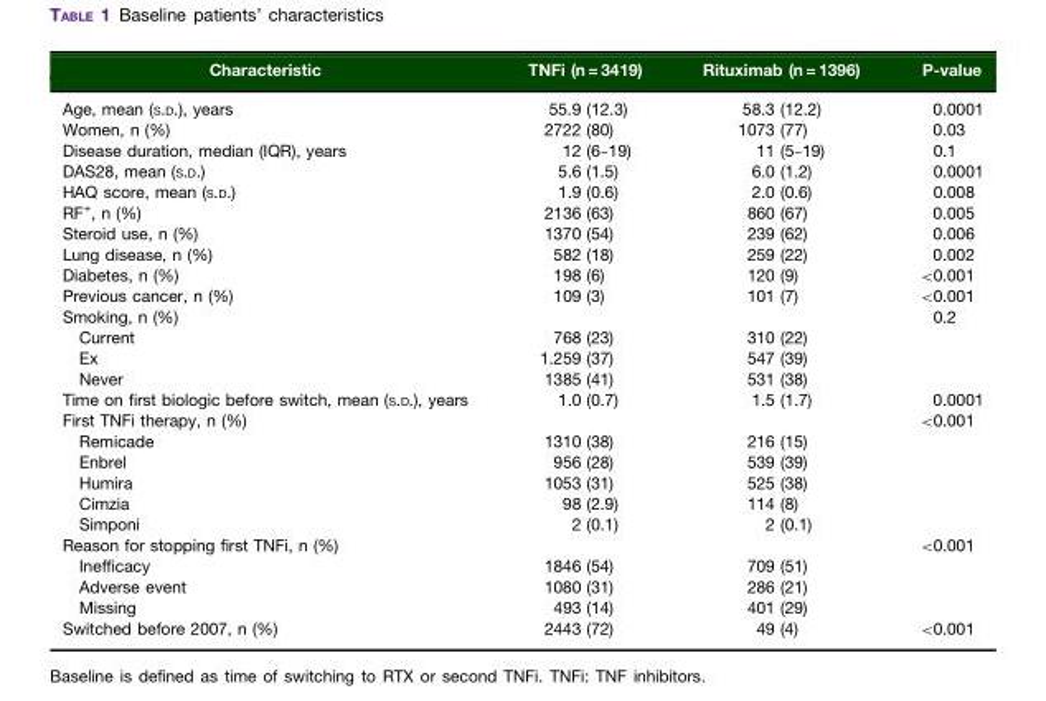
<table><thead><tr><td>Characteristic</td><td>TNFi (n = 3419)</td><td>Rituximab (n = 1396)</td><td>P-value</td></tr></thead><tbody><tr><td>Age, mean (S.D.), years</td><td>55.9 (12.3)</td><td>58.3 (12.2)</td><td>0.0001</td></tr><tr><td>Women, n (%)</td><td>2722 (80)</td><td>1073 (77)</td><td>0.03</td></tr><tr><td>Disease duration, median (IQR), years</td><td>12 (6–19)</td><td>11 (5–19)</td><td>0.1</td></tr><tr><td>DAS28, mean (S.D.)</td><td>5.6 (1.5)</td><td>6.0 (1.2)</td><td>0.0001</td></tr><tr><td>HAQ score, mean (S.D.)</td><td>1.9 (0.6)</td><td>2.0 (0.6)</td><td>0.008</td></tr><tr><td>RF<sup>+</sup>, n (%)</td><td>2136 (63)</td><td>860 (67)</td><td>0.005</td></tr><tr><td>Steroid use, n (%)</td><td>1370 (54)</td><td>239 (62)</td><td>0.006</td></tr><tr><td>Lung disease, n (%)</td><td>582 (18)</td><td>259 (22)</td><td>0.002</td></tr><tr><td>Diabetes, n (%)</td><td>198 (6)</td><td>120 (9)</td><td>&lt;0.001</td></tr><tr><td>Previous cancer, n (%)</td><td>109 (3)</td><td>101 (7)</td><td>&lt;0.001</td></tr><tr><td>Smoking, n (%)</td><td></td><td></td><td>0.2</td></tr><tr><td>Current</td><td>768 (23)</td><td>310 (22)</td><td></td></tr><tr><td>Ex</td><td>1.259 (37)</td><td>547 (39)</td><td></td></tr><tr><td>Never</td><td>1385 (41)</td><td>531 (38)</td><td></td></tr><tr><td>Time on first biologic before switch, mean (S.D.), years</td><td>1.0 (0.7)</td><td>1.5 (1.7)</td><td>0.0001</td></tr><tr><td>First TNFi therapy, n (%)</td><td></td><td></td><td>&lt;0.001</td></tr><tr><td>Remicade</td><td>1310 (38)</td><td>216 (15)</td><td></td></tr><tr><td>Enbrel</td><td>956 (28)</td><td>539 (39)</td><td></td></tr><tr><td>Humira</td><td>1053 (31)</td><td>525 (38)</td><td></td></tr><tr><td>Cimzia</td><td>98 (2.9)</td><td>114 (8)</td><td></td></tr><tr><td>Simponi</td><td>2 (0.1)</td><td>2 (0.1)</td><td></td></tr><tr><td>Reason for stopping first TNFi, n (%)</td><td></td><td></td><td>&lt;0.001</td></tr><tr><td>Inefficacy</td><td>1846 (54)</td><td>709 (51)</td><td></td></tr><tr><td>Adverse event</td><td>1080 (31)</td><td>286 (21)</td><td></td></tr><tr><td>Missing</td><td>493 (14)</td><td>401 (29)</td><td></td></tr><tr><td>Switched before 2007, n (%)</td><td>2443 (72)</td><td>49 (4)</td><td>&lt;0.001</td></tr></tbody></table>